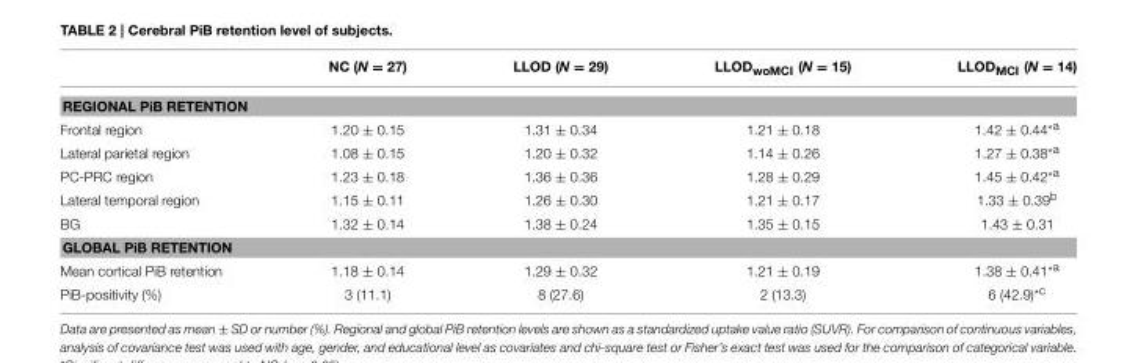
<table><thead><tr><td></td><td>NC (N = 27)</td><td>LLOD (N = 29)</td><td>LLOD<sub>woMCI</sub> (N = 15)</td><td>LLOD<sub>MCI</sub> (N = 14)</td></tr></thead><tbody><tr><td colspan="5">REGIONAL PiB RETENTION</td></tr><tr><td>Frontal region</td><td>1.20 ± 0.15</td><td>1.31 ± 0.34</td><td>1.21 ± 0.18</td><td>1.42 ± 0.44<sup>*a</sup></td></tr><tr><td>Lateral parietal region</td><td>1.08 ± 0.15</td><td>1.20 ± 0.32</td><td>1.14 ± 0.26</td><td>1.27 ± 0.38<sup>*a</sup></td></tr><tr><td>PC-PRC region</td><td>1.23 ± 0.18</td><td>1.36 ± 0.36</td><td>1.28 ± 0.29</td><td>1.45 ± 0.42<sup>*a</sup></td></tr><tr><td>Lateral temporal region</td><td>1.15 ± 0.11</td><td>1.26 ± 0.30</td><td>1.21 ± 0.17</td><td>1.33 ± 0.39<sup>b</sup></td></tr><tr><td>BG</td><td>1.32 ± 0.14</td><td>1.38 ± 0.24</td><td>1.35 ± 0.15</td><td>1.43 ± 0.31</td></tr><tr><td colspan="5">GLOBAL PiB RETENTION</td></tr><tr><td>Mean cortical PiB retention</td><td>1.18 ± 0.14</td><td>1.29 ± 0.32</td><td>1.21 ± 0.19</td><td>1.38 ± 0.41<sup>*a</sup></td></tr><tr><td>PiB-positivity (%)</td><td>3 (11.1)</td><td>8 (27.6)</td><td>2 (13.3)</td><td>6 (42.9)<sup>*c</sup></td></tr></tbody></table>